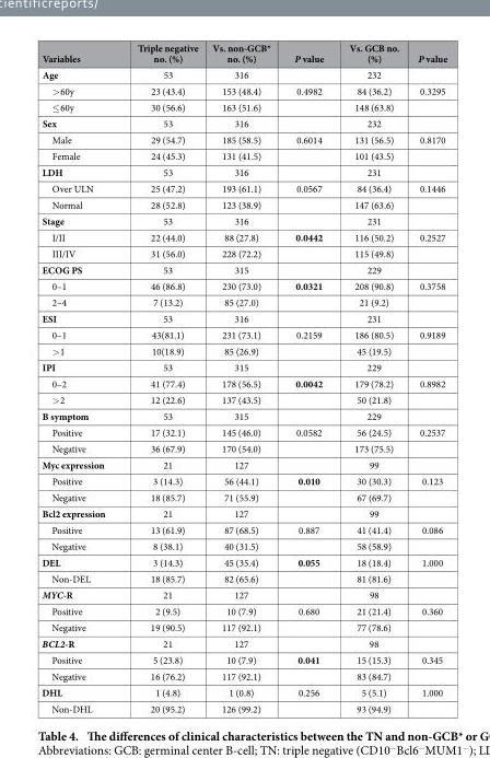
<table><thead><tr><td>Variables</td><td>Triple negative no. (%)</td><td>Vs. non-GCB* no. (%)</td><td>P value</td><td>Vs. GCB no. (%)</td><td>P value</td></tr></thead><tbody><tr><td>Age</td><td>53</td><td>316</td><td></td><td>232</td><td></td></tr><tr><td>&gt; 60y</td><td>23 (43.4)</td><td>153 (48.4)</td><td>0.4982</td><td>84 (36.2)</td><td>0.3295</td></tr><tr><td>≤ 60y</td><td>30 (56.6)</td><td>163 (51.6)</td><td></td><td>148 (63.8)</td><td></td></tr><tr><td>Sex</td><td>53</td><td>316</td><td></td><td>232</td><td></td></tr><tr><td>Male</td><td>29 (54.7)</td><td>185 (58.5)</td><td>0.6014</td><td>131 (56.5)</td><td>0.8170</td></tr><tr><td>Female</td><td>24 (45.3)</td><td>131 (41.5)</td><td></td><td>101 (43.5)</td><td></td></tr><tr><td>LDH</td><td>53</td><td>316</td><td></td><td>231</td><td></td></tr><tr><td>Over ULN</td><td>25 (47.2)</td><td>193 (61.1)</td><td>0.0567</td><td>84 (36.4)</td><td>0.1446</td></tr><tr><td>Normal</td><td>28 (52.8)</td><td>123 (38.9)</td><td></td><td>147 (63.6)</td><td></td></tr><tr><td>Stage</td><td>53</td><td>316</td><td></td><td>231</td><td></td></tr><tr><td>I/II</td><td>22 (44.0)</td><td>88 (27.8)</td><td>0.0442</td><td>116 (50.2)</td><td>0.2527</td></tr><tr><td>III/IV</td><td>31 (56.0)</td><td>228 (72.2)</td><td></td><td>115 (49.8)</td><td></td></tr><tr><td>ECOG PS</td><td>53</td><td>315</td><td></td><td>229</td><td></td></tr><tr><td>0–1</td><td>46 (86.8)</td><td>230 (73.0)</td><td>0.0321</td><td>208 (90.8)</td><td>0.3758</td></tr><tr><td>2–4</td><td>7 (13.2)</td><td>85 (27.0)</td><td></td><td>21 (9.2)</td><td></td></tr><tr><td>ESI</td><td>53</td><td>316</td><td></td><td>231</td><td></td></tr><tr><td>0–1</td><td>43(81.1)</td><td>231 (73.1)</td><td>0.2159</td><td>186 (80.5)</td><td>0.9189</td></tr><tr><td>&gt; 1</td><td>10(18.9)</td><td>85 (26.9)</td><td></td><td>45 (19.5)</td><td></td></tr><tr><td>IPI</td><td>53</td><td>315</td><td></td><td>229</td><td></td></tr><tr><td>0–2</td><td>41 (77.4)</td><td>178 (56.5)</td><td>0.0042</td><td>179 (78.2)</td><td>0.8982</td></tr><tr><td>&gt; 2</td><td>12 (22.6)</td><td>137 (43.5)</td><td></td><td>50 (21.8)</td><td></td></tr><tr><td>B symptom</td><td>53</td><td>315</td><td></td><td>229</td><td></td></tr><tr><td>Positive</td><td>17 (32.1)</td><td>145 (46.0)</td><td>0.0582</td><td>56 (24.5)</td><td>0.2537</td></tr><tr><td>Negative</td><td>36 (67.9)</td><td>170 (54.0)</td><td></td><td>173 (75.5)</td><td></td></tr><tr><td>Myc expression</td><td>21</td><td>127</td><td></td><td>99</td><td></td></tr><tr><td>Positive</td><td>3 (14.3)</td><td>56 (44.1)</td><td>0.010</td><td>30 (30.3)</td><td>0.123</td></tr><tr><td>Negative</td><td>18 (85.7)</td><td>71 (55.9)</td><td></td><td>67 (69.7)</td><td></td></tr><tr><td>Bcl2 expression</td><td>21</td><td>127</td><td></td><td>99</td><td></td></tr><tr><td>Positive</td><td>13 (61.9)</td><td>87 (68.5)</td><td>0.887</td><td>41 (41.4)</td><td>0.086</td></tr><tr><td>Negative</td><td>8 (38.1)</td><td>40 (31.5)</td><td></td><td>58 (58.9)</td><td></td></tr><tr><td>DEL</td><td>3 (14.3)</td><td>45 (35.4)</td><td>0.055</td><td>18 (18.4)</td><td>1.000</td></tr><tr><td>Non-DEL</td><td>18 (85.7)</td><td>82 (65.6)</td><td></td><td>81 (81.6)</td><td></td></tr><tr><td>MYC-R</td><td>21</td><td>127</td><td></td><td>98</td><td></td></tr><tr><td>Positive</td><td>2 (9.5)</td><td>10 (7.9)</td><td>0.680</td><td>21 (21.4)</td><td>0.360</td></tr><tr><td>Negative</td><td>19 (90.5)</td><td>117 (92.1)</td><td></td><td>77 (78.6)</td><td></td></tr><tr><td>BCL2-R</td><td>21</td><td>127</td><td></td><td>98</td><td></td></tr><tr><td>Positive</td><td>5 (23.8)</td><td>10 (7.9)</td><td>0.041</td><td>15 (15.3)</td><td>0.345</td></tr><tr><td>Negative</td><td>16 (76.2)</td><td>117 (92.1)</td><td></td><td>83 (84.7)</td><td></td></tr><tr><td>DHL</td><td>1 (4.8)</td><td>1 (0.8)</td><td>0.256</td><td>5 (5.1)</td><td>1.000</td></tr><tr><td>Non-DHL</td><td>20 (95.2)</td><td>126 (99.2)</td><td></td><td>93 (94.9)</td><td></td></tr></tbody></table>